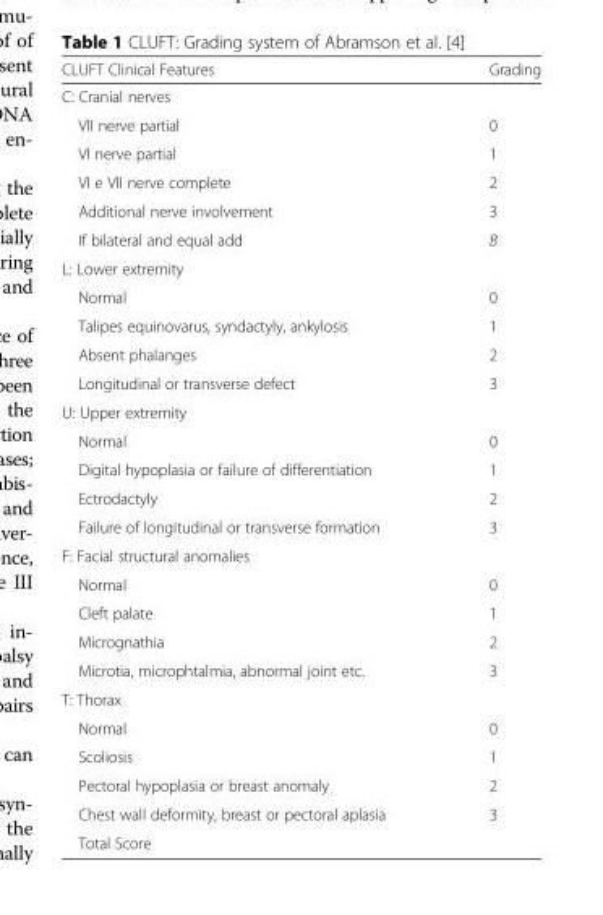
<table><thead><tr><td>CLUFT Clinical Features</td><td>Grading</td></tr></thead><tbody><tr><td colspan="2">C: Cranial nerves</td></tr><tr><td>VII nerve partial</td><td>0</td></tr><tr><td>VI nerve partial</td><td>1</td></tr><tr><td>VI e VII nerve complete</td><td>2</td></tr><tr><td>Additional nerve involvement</td><td>3</td></tr><tr><td>If bilateral and equal add</td><td>B</td></tr><tr><td colspan="2">L: Lower extremity</td></tr><tr><td>Normal</td><td>0</td></tr><tr><td>Talipes equinovarus, syndactyly, ankylosis</td><td>1</td></tr><tr><td>Absent phalanges</td><td>2</td></tr><tr><td>Longitudinal or transverse defect</td><td>3</td></tr><tr><td colspan="2">U: Upper extremity</td></tr><tr><td>Normal</td><td>0</td></tr><tr><td>Digital hypoplasia or failure of differentiation</td><td>1</td></tr><tr><td>Ectrodactyly</td><td>2</td></tr><tr><td>Failure of longitudinal or transverse formation</td><td>3</td></tr><tr><td colspan="2">F: Facial structural anomalies</td></tr><tr><td>Normal</td><td>0</td></tr><tr><td>Cleft palate</td><td>1</td></tr><tr><td>Micrognathia</td><td>2</td></tr><tr><td>Microtia, microphtalmia, abnormal joint etc.</td><td>3</td></tr><tr><td colspan="2">T: Thorax</td></tr><tr><td>Normal</td><td>0</td></tr><tr><td>Scoliosis</td><td>1</td></tr><tr><td>Pectoral hypoplasia or breast anomaly</td><td>2</td></tr><tr><td>Chest wall deformity, breast or pectoral aplasia</td><td>3</td></tr><tr><td>Total Score</td><td></td></tr></tbody></table>